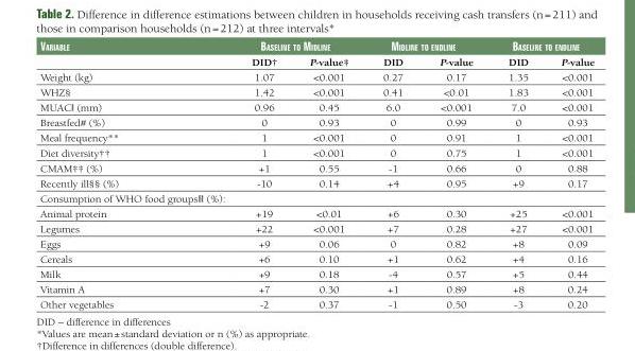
<table><thead><tr><td rowspan="2">Variable</td><td colspan="2">baseline to midline</td><td colspan="2">midline to endline</td><td colspan="2">baseline to endline</td></tr><tr><td>DID†</td><td>P-value‡</td><td>DID</td><td>P-value</td><td>DID</td><td>P-value</td></tr></thead><tbody><tr><td>Weight (kg)</td><td>1.07</td><td>&lt;0.001</td><td>0.27</td><td>0.17</td><td>1.35</td><td>&lt;0.001</td></tr><tr><td>WHZ§</td><td>1.42</td><td>&lt;0.001</td><td>0.41</td><td>&lt;0.01</td><td>1.83</td><td>&lt;0.001</td></tr><tr><td>MUAC‖ (mm)</td><td>0.96</td><td>0.45</td><td>6.0</td><td>&lt;0.001</td><td>7.0</td><td>&lt;0.001</td></tr><tr><td>Breastfed# (%)</td><td>0</td><td>0.93</td><td>0</td><td>0.99</td><td>0</td><td>0.93</td></tr><tr><td>Meal frequency**</td><td>1</td><td>&lt;0.001</td><td>0</td><td>0.91</td><td>1</td><td>&lt;0.001</td></tr><tr><td>Diet diversity††</td><td>1</td><td>&lt;0.001</td><td>0</td><td>0.75</td><td>1</td><td>&lt;0.001</td></tr><tr><td>CMAM‡‡ (%)</td><td>+1</td><td>0.55</td><td>-1</td><td>0.66</td><td>0</td><td>0.88</td></tr><tr><td>Recently ill§§ (%)</td><td>-10</td><td>0.14</td><td>+4</td><td>0.95</td><td>+9</td><td>0.17</td></tr><tr><td colspan="7">Consumption of WHO food groups‖‖ (%):</td></tr><tr><td>Animal protein</td><td>+19</td><td>&lt;0.01</td><td>+6</td><td>0.30</td><td>+25</td><td>&lt;0.001</td></tr><tr><td>Legumes</td><td>+22</td><td>&lt;0.001</td><td>+7</td><td>0.28</td><td>+27</td><td>&lt;0.001</td></tr><tr><td>Eggs</td><td>+9</td><td>0.06</td><td>0</td><td>0.82</td><td>+8</td><td>0.09</td></tr><tr><td>Cereals</td><td>+6</td><td>0.10</td><td>+1</td><td>0.62</td><td>+4</td><td>0.16</td></tr><tr><td>Milk</td><td>+9</td><td>0.18</td><td>-4</td><td>0.57</td><td>+5</td><td>0.44</td></tr><tr><td>Vitamin A</td><td>+7</td><td>0.30</td><td>+1</td><td>0.89</td><td>+8</td><td>0.24</td></tr><tr><td>Other vegetables</td><td>-2</td><td>0.37</td><td>-1</td><td>0.50</td><td>-3</td><td>0.20</td></tr></tbody></table>